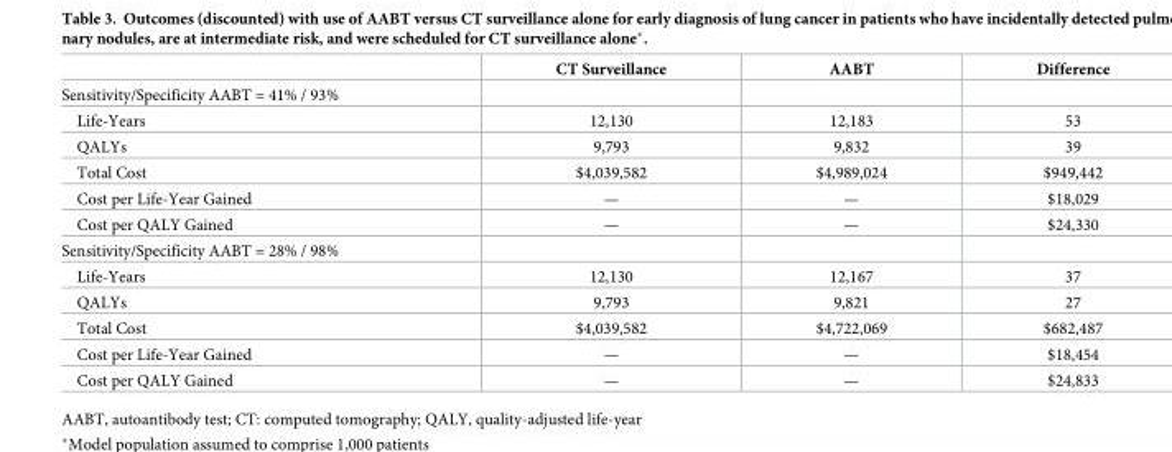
<table><thead><tr><td></td><td>CT Surveillance</td><td>AABT</td><td>Difference</td></tr></thead><tbody><tr><td colspan="4">Sensitivity/Specificity AABT = 41% / 93%</td></tr><tr><td>Life-Years</td><td>12,130</td><td>12,183</td><td>53</td></tr><tr><td>QALYs</td><td>9,793</td><td>9,832</td><td>39</td></tr><tr><td>Total Cost</td><td>$4,039,582</td><td>$4,989,024</td><td>$949,442</td></tr><tr><td>Cost per Life-Year Gained</td><td>—</td><td>—</td><td>$18,029</td></tr><tr><td>Cost per QALY Gained</td><td>—</td><td>—</td><td>$24,330</td></tr><tr><td colspan="4">Sensitivity/Specificity AABT = 28% / 98%</td></tr><tr><td>Life-Years</td><td>12,130</td><td>12,167</td><td>37</td></tr><tr><td>QALYs</td><td>9,793</td><td>9,821</td><td>27</td></tr><tr><td>Total Cost</td><td>$4,039,582</td><td>$4,722,069</td><td>$682,487</td></tr><tr><td>Cost per Life-Year Gained</td><td>—</td><td>—</td><td>$18,454</td></tr><tr><td>Cost per QALY Gained</td><td>—</td><td>—</td><td>$24,833</td></tr></tbody></table>